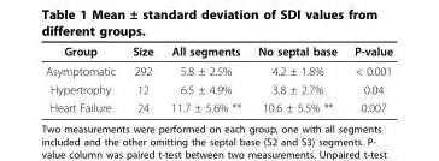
<table><thead><tr><td>Group</td><td>Size</td><td>All segments</td><td>No septal base</td><td>P-value</td></tr></thead><tbody><tr><td>Asymptomatic</td><td>292</td><td>5.8 ± 2.5%</td><td>4.2 ± 1.8%</td><td>&lt; 0.001</td></tr><tr><td>Hypertrophy</td><td>12</td><td>6.5 ± 4.9%</td><td>3.8 ± 2.7%</td><td>0.04</td></tr><tr><td>Heart Failure</td><td>24</td><td>11.7 ± 5.6% **</td><td>10.6 ± 5.5% **</td><td>0.007</td></tr></tbody></table>